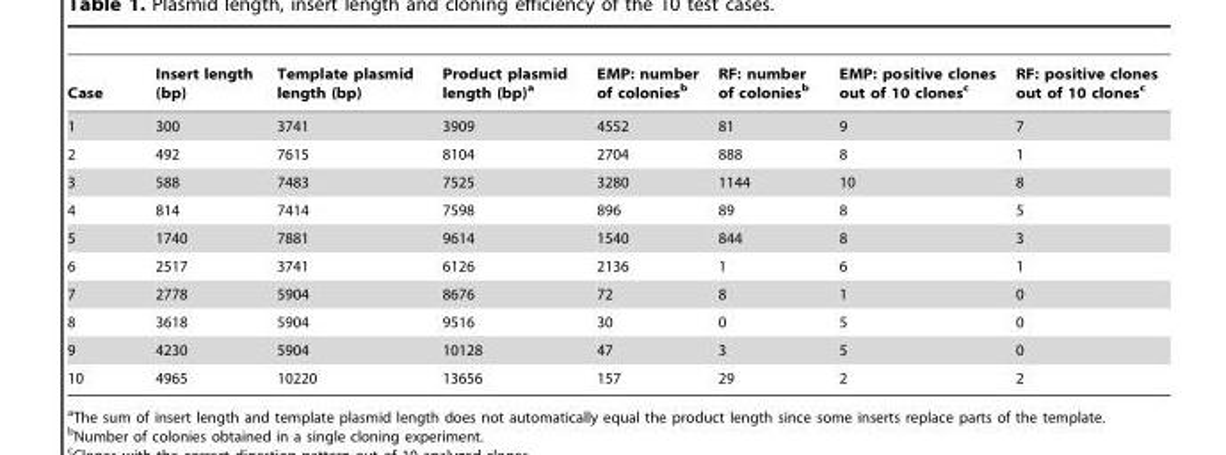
<table><thead><tr><td>Case</td><td>Insert length (bp)</td><td>Template plasmid length (bp)</td><td>Product plasmid length (bp)<sup>a</sup></td><td>EMP: number of colonies<sup>b</sup></td><td>RF: number of colonies<sup>b</sup></td><td>EMP: positive clones out of 10 clones<sup>c</sup></td><td>RF: positive clones out of 10 clones<sup>c</sup></td></tr></thead><tbody><tr><td>1</td><td>300</td><td>3741</td><td>3909</td><td>4552</td><td>81</td><td>9</td><td>7</td></tr><tr><td>2</td><td>492</td><td>7615</td><td>8104</td><td>2704</td><td>888</td><td>8</td><td>1</td></tr><tr><td>3</td><td>588</td><td>7483</td><td>7525</td><td>3280</td><td>1144</td><td>10</td><td>8</td></tr><tr><td>4</td><td>814</td><td>7414</td><td>7598</td><td>896</td><td>89</td><td>8</td><td>5</td></tr><tr><td>5</td><td>1740</td><td>7881</td><td>9614</td><td>1540</td><td>844</td><td>8</td><td>3</td></tr><tr><td>6</td><td>2517</td><td>3741</td><td>6126</td><td>2136</td><td>1</td><td>6</td><td>1</td></tr><tr><td>7</td><td>2778</td><td>5904</td><td>8676</td><td>72</td><td>8</td><td>1</td><td>0</td></tr><tr><td>8</td><td>3618</td><td>5904</td><td>9516</td><td>30</td><td>0</td><td>5</td><td>0</td></tr><tr><td>9</td><td>4230</td><td>5904</td><td>10128</td><td>47</td><td>3</td><td>5</td><td>0</td></tr><tr><td>10</td><td>4965</td><td>10220</td><td>13656</td><td>157</td><td>29</td><td>2</td><td>2</td></tr></tbody></table>